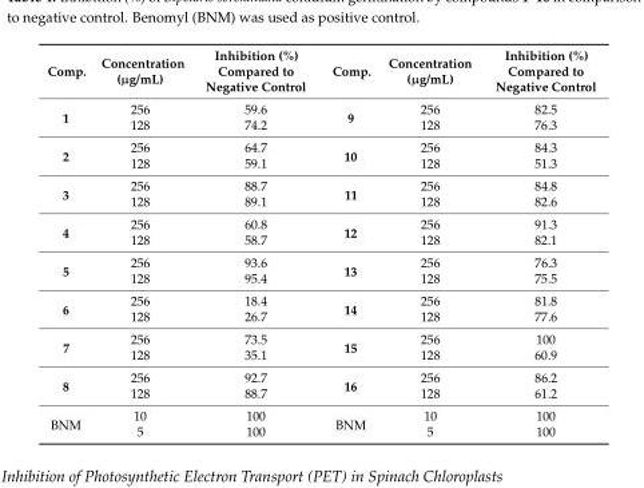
<table><thead><tr><td>Comp.</td><td>Concentration (µg/mL)</td><td>Inhibition (%) Compared to Negative Control</td><td>Comp.</td><td>Concentration (µg/mL)</td><td>Inhibition (%) Compared to Negative Control</td></tr></thead><tbody><tr><td rowspan="2">1</td><td>256</td><td>59.6</td><td rowspan="2">9</td><td>256</td><td>82.5</td></tr><tr><td>128</td><td>74.2</td><td>128</td><td>76.3</td></tr><tr><td rowspan="2">2</td><td>256</td><td>64.7</td><td rowspan="2">10</td><td>256</td><td>84.3</td></tr><tr><td>128</td><td>59.1</td><td>128</td><td>51.3</td></tr><tr><td rowspan="2">3</td><td>256</td><td>88.7</td><td rowspan="2">11</td><td>256</td><td>84.8</td></tr><tr><td>128</td><td>89.1</td><td>128</td><td>82.6</td></tr><tr><td rowspan="2">4</td><td>256</td><td>60.8</td><td rowspan="2">12</td><td>256</td><td>91.3</td></tr><tr><td>128</td><td>58.7</td><td>128</td><td>82.1</td></tr><tr><td rowspan="2">5</td><td>256</td><td>93.6</td><td rowspan="2">13</td><td>256</td><td>76.3</td></tr><tr><td>128</td><td>95.4</td><td>128</td><td>75.5</td></tr><tr><td rowspan="2">6</td><td>256</td><td>18.4</td><td rowspan="2">14</td><td>256</td><td>81.8</td></tr><tr><td>128</td><td>26.7</td><td>128</td><td>77.6</td></tr><tr><td rowspan="2">7</td><td>256</td><td>73.5</td><td rowspan="2">15</td><td>256</td><td>100</td></tr><tr><td>128</td><td>35.1</td><td>128</td><td>60.9</td></tr><tr><td rowspan="2">8</td><td>256</td><td>92.7</td><td rowspan="2">16</td><td>256</td><td>86.2</td></tr><tr><td>128</td><td>88.7</td><td>128</td><td>61.2</td></tr><tr><td rowspan="2">BNM</td><td>10</td><td>100</td><td rowspan="2">BNM</td><td>10</td><td>100</td></tr><tr><td>5</td><td>100</td><td>5</td><td>100</td></tr></tbody></table>